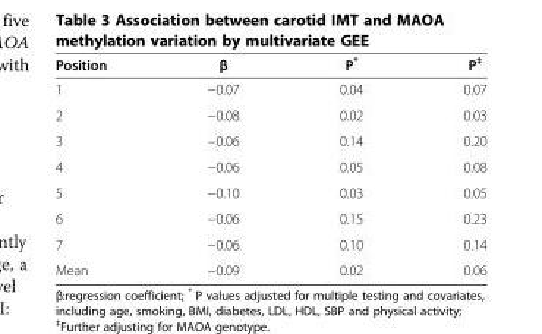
<table><thead><tr><td>Position</td><td>β</td><td>P*</td><td>P<sup>‡</sup></td></tr></thead><tbody><tr><td>1</td><td>−0.07</td><td>0.04</td><td>0.07</td></tr><tr><td>2</td><td>−0.08</td><td>0.02</td><td>0.03</td></tr><tr><td>3</td><td>−0.06</td><td>0.14</td><td>0.20</td></tr><tr><td>4</td><td>−0.06</td><td>0.05</td><td>0.08</td></tr><tr><td>5</td><td>−0.10</td><td>0.03</td><td>0.05</td></tr><tr><td>6</td><td>−0.06</td><td>0.15</td><td>0.23</td></tr><tr><td>7</td><td>−0.06</td><td>0.10</td><td>0.14</td></tr><tr><td>Mean</td><td>−0.09</td><td>0.02</td><td>0.06</td></tr></tbody></table>